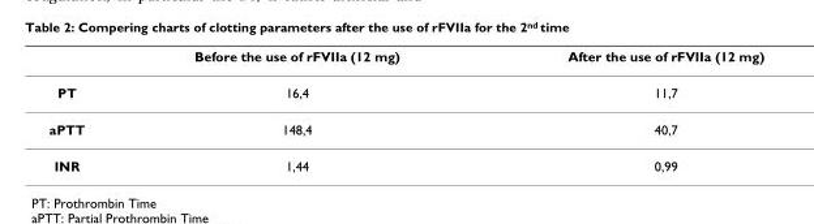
<table><thead><tr><td></td><td>Before the use of rFVIIa (12 mg)</td><td>After the use of rFVIIa (12 mg)</td></tr></thead><tbody><tr><td>PT</td><td>16,4</td><td>11,7</td></tr><tr><td>aPTT</td><td>148,4</td><td>40,7</td></tr><tr><td>INR</td><td>1,44</td><td>0,99</td></tr></tbody></table>